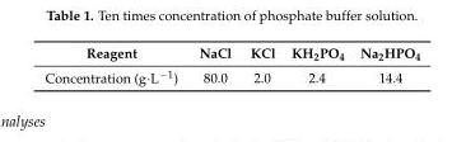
<table><thead><tr><td>Reagent</td><td>NaCl</td><td>KCl</td><td>KH2PO4</td><td>Na2HPO4</td></tr></thead><tbody><tr><td>Concentration (g·L−1)</td><td>80.0</td><td>2.0</td><td>2.4</td><td>14.4</td></tr></tbody></table>